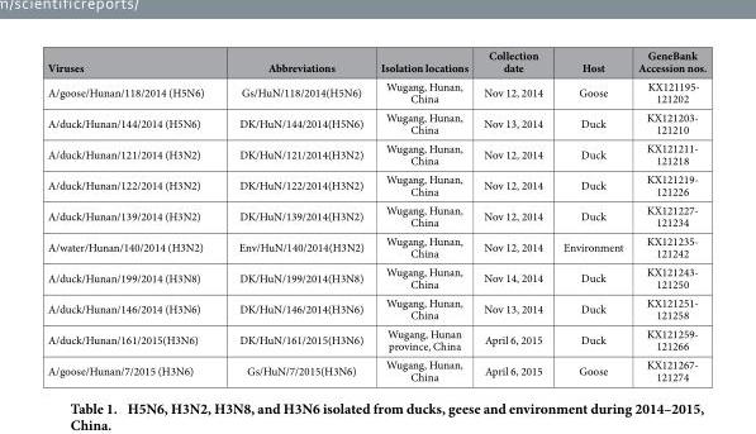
<table><thead><tr><td>Viruses</td><td>Abbreviations</td><td>Isolation locations</td><td>Collection date</td><td>Host</td><td>GeneBank Accession nos.</td></tr></thead><tbody><tr><td>A/goose/Hunan/118/2014 (H5N6)</td><td>Gs/HuN/118/2014(H5N6)</td><td>Wugang, Hunan, China</td><td>Nov 12, 2014</td><td>Goose</td><td>KX121195- 121202</td></tr><tr><td>A/duck/Hunan/144/2014 (H5N6)</td><td>DK/HuN/144/2014(H5N6)</td><td>Wugang, Hunan, China</td><td>Nov 13, 2014</td><td>Duck</td><td>KX121203- 121210</td></tr><tr><td>A/duck/Hunan/121/2014 (H3N2)</td><td>DK/HuN/121/2014(H3N2)</td><td>Wugang, Hunan, China</td><td>Nov 12, 2014</td><td>Duck</td><td>KX121211- 121218</td></tr><tr><td>A/duck/Hunan/122/2014 (H3N2)</td><td>DK/HuN/122/2014(H3N2)</td><td>Wugang, Hunan, China</td><td>Nov 12, 2014</td><td>Duck</td><td>KX121219- 121226</td></tr><tr><td>A/duck/Hunan/139/2014 (H3N2)</td><td>DK/HuN/139/2014(H3N2)</td><td>Wugang, Hunan, China</td><td>Nov 12, 2014</td><td>Duck</td><td>KX121227- 121234</td></tr><tr><td>A/water/Hunan/140/2014 (H3N2)</td><td>Env/HuN/140/2014(H3N2)</td><td>Wugang, Hunan, China</td><td>Nov 12, 2014</td><td>Environment</td><td>KX121235- 121242</td></tr><tr><td>A/duck/Hunan/199/2014 (H3N8)</td><td>DK/HuN/199/2014(H3N8)</td><td>Wugang, Hunan, China</td><td>Nov 14, 2014</td><td>Duck</td><td>KX121243- 121250</td></tr><tr><td>A/duck/Hunan/146/2014 (H3N6)</td><td>DK/HuN/146/2014(H3N6)</td><td>Wugang, Hunan, China</td><td>Nov 13, 2014</td><td>Duck</td><td>KX121251- 121258</td></tr><tr><td>A/duck/Hunan/161/2015(H3N6)</td><td>DK/HuN/161/2015(H3N6)</td><td>Wugang, Hunan province, China</td><td>April 6, 2015</td><td>Duck</td><td>KX121259- 121266</td></tr><tr><td>A/goose/Hunan/7/2015 (H3N6)</td><td>Gs/HuN/7/2015(H3N6)</td><td>Wugang, Hunan, China</td><td>April 6, 2015</td><td>Goose</td><td>KX121267- 121274</td></tr></tbody></table>